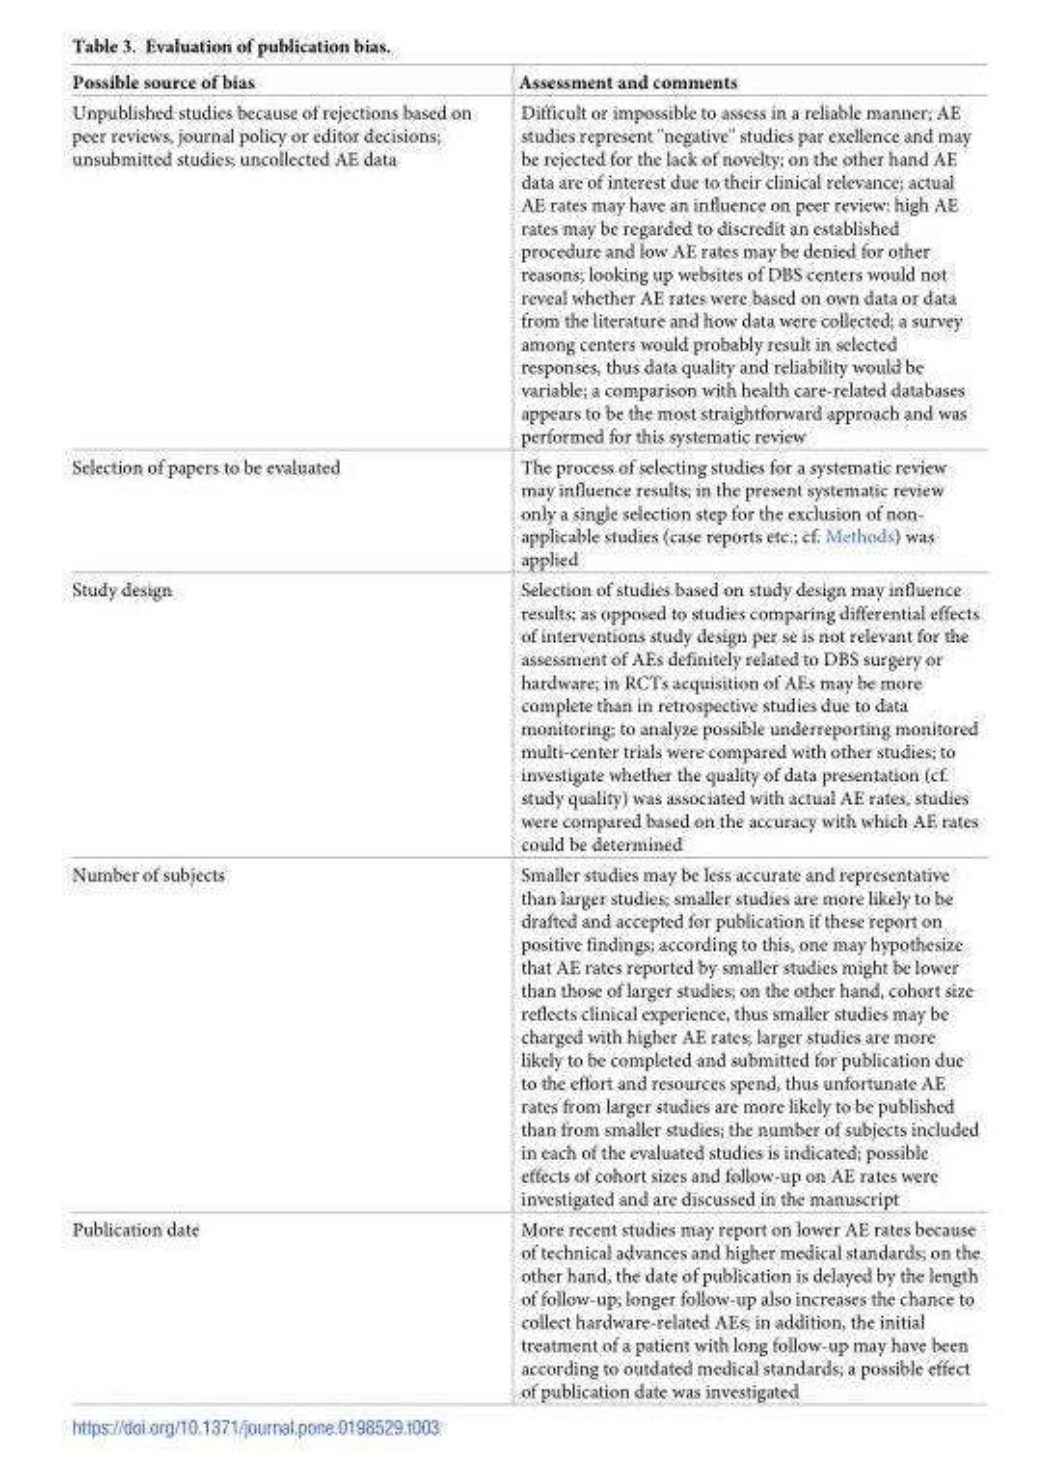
<table><thead><tr><td>Possible source of bias</td><td>Assessment and comments</td></tr></thead><tbody><tr><td>Unpublished studies because of rejections based on peer reviews, journal policy or editor decisions; unsubmitted studies; uncollected AE data</td><td>Difficult or impossible to assess in a reliable manner; AE studies represent &quot;negative&quot; studies par exellence and may be rejected for the lack of novelty; on the other hand AE data are of interest due to their clinical relevance; actual AE rates may have an influence on peer review: high AE rates may be regarded to discredit an established procedure and low AE rates may be denied for other reasons; looking up websites of DBS centers would not reveal whether AE rates were based on own data or data from the literature and how data were collected; a survey among centers would probably result in selected responses, thus data quality and reliability would be variable; a comparison with health care-related databases appears to be the most straightforward approach and was performed for this systematic review</td></tr><tr><td>Selection of papers to be evaluated</td><td>The process of selecting studies for a systematic review may influence results; in the present systematic review only a single selection step for the exclusion of non- applicable studies (case reports etc.; cf. Methods) was applied</td></tr><tr><td>Study design</td><td>Selection of studies based on study design may influence results; as opposed to studies comparing differential effects of interventions study design per se is not relevant for the assessment of AEs definitely related to DBS surgery or hardware; in RCTs acquisition of AEs may be more complete than in retrospective studies due to data monitoring; to analyze possible underreporting monitored multi-center trials were compared with other studies; to investigate whether the quality of data presentation (cf. study quality) was associated with actual AE rates, studies were compared based on the accuracy with which AE rates could be determined</td></tr><tr><td>Number of subjects</td><td>Smaller studies may be less accurate and representative than larger studies; smaller studies are more likely to be drafted and accepted for publication if these report on positive findings; according to this, one may hypothesize that AE rates reported by smaller studies might be lower than those of larger studies; on the other hand, cohort size reflects clinical experience, thus smaller studies may be charged with higher AE rates; larger studies are more likely to be completed and submitted for publication due to the effort and resources spend, thus unfortunate AE rates from larger studies are more likely to be published than from smaller studies; the number of subjects included in each of the evaluated studies is indicated; possible effects of cohort sizes and follow-up on AE rates were investigated and are discussed in the manuscript</td></tr><tr><td>Publication date</td><td>More recent studies may report on lower AE rates because of technical advances and higher medical standards; on the other hand, the date of publication is delayed by the length of follow-up; longer follow-up also increases the chance to collect hardware-related AEs; in addition, the initial treatment of a patient with long follow-up may have been according to outdated medical standards; a possible effect of publication date was investigated</td></tr></tbody></table>